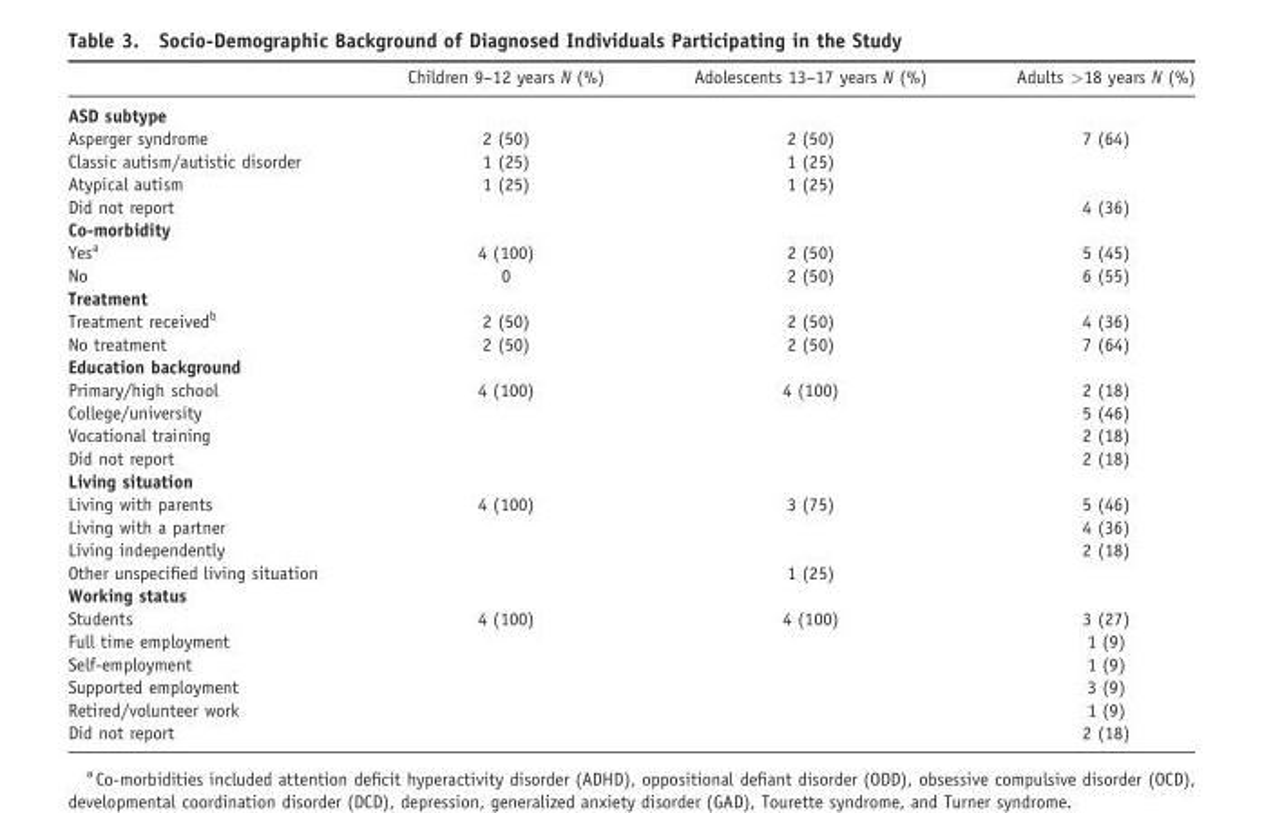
<table><thead><tr><td></td><td>Children 9–12 years N (%)</td><td>Adolescents 13–17 years N (%)</td><td>Adults &gt;18 years N (%)</td></tr></thead><tbody><tr><td colspan="4">ASD subtype</td></tr><tr><td>Asperger syndrome</td><td>2 (50)</td><td>2 (50)</td><td>7 (64)</td></tr><tr><td>Classic autism/autistic disorder</td><td>1 (25)</td><td>1 (25)</td><td></td></tr><tr><td>Atypical autism</td><td>1 (25)</td><td>1 (25)</td><td></td></tr><tr><td>Did not report</td><td></td><td></td><td>4 (36)</td></tr><tr><td colspan="4">Co-morbidity</td></tr><tr><td>Yes<sup>a</sup></td><td>4 (100)</td><td>2 (50)</td><td>5 (45)</td></tr><tr><td>No</td><td>0</td><td>2 (50)</td><td>6 (55)</td></tr><tr><td colspan="4">Treatment</td></tr><tr><td>Treatment received<sup>b</sup></td><td>2 (50)</td><td>2 (50)</td><td>4 (36)</td></tr><tr><td>No treatment</td><td>2 (50)</td><td>2 (50)</td><td>7 (64)</td></tr><tr><td colspan="4">Education background</td></tr><tr><td>Primary/high school</td><td>4 (100)</td><td>4 (100)</td><td>2 (18)</td></tr><tr><td>College/university</td><td></td><td></td><td>5 (46)</td></tr><tr><td>Vocational training</td><td></td><td></td><td>2 (18)</td></tr><tr><td>Did not report</td><td></td><td></td><td>2 (18)</td></tr><tr><td colspan="4">Living situation</td></tr><tr><td>Living with parents</td><td>4 (100)</td><td>3 (75)</td><td>5 (46)</td></tr><tr><td>Living with a partner</td><td></td><td></td><td>4 (36)</td></tr><tr><td>Living independently</td><td></td><td></td><td>2 (18)</td></tr><tr><td>Other unspecified living situation</td><td></td><td>1 (25)</td><td></td></tr><tr><td colspan="4">Working status</td></tr><tr><td>Students</td><td>4 (100)</td><td>4 (100)</td><td>3 (27)</td></tr><tr><td>Full time employment</td><td></td><td></td><td>1 (9)</td></tr><tr><td>Self-employment</td><td></td><td></td><td>1 (9)</td></tr><tr><td>Supported employment</td><td></td><td></td><td>3 (9)</td></tr><tr><td>Retired/volunteer work</td><td></td><td></td><td>1 (9)</td></tr><tr><td>Did not report</td><td></td><td></td><td>2 (18)</td></tr></tbody></table>